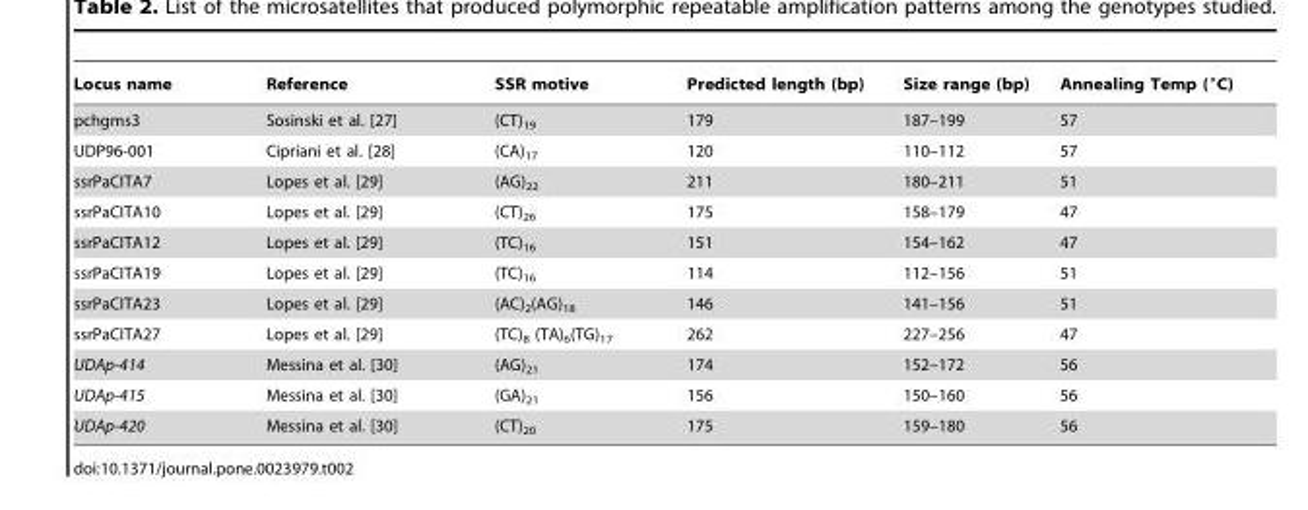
<table><thead><tr><td>Locus name</td><td>Reference</td><td>SSR motive</td><td>Predicted length (bp)</td><td>Size range (bp)</td><td>Annealing Temp (°C)</td></tr></thead><tbody><tr><td>pchgms3</td><td>Sosinski et al. [27]</td><td>(CT)<sub>19</sub></td><td>179</td><td>187–199</td><td>57</td></tr><tr><td>UDP96-001</td><td>Cipriani et al. [28]</td><td>(CA)<sub>17</sub></td><td>120</td><td>110–112</td><td>57</td></tr><tr><td>ssrPaCITA7</td><td>Lopes et al. [29]</td><td>(AG)<sub>22</sub></td><td>211</td><td>180–211</td><td>51</td></tr><tr><td>ssrPaCITA10</td><td>Lopes et al. [29]</td><td>(CT)<sub>26</sub></td><td>175</td><td>158–179</td><td>47</td></tr><tr><td>ssrPaCITA12</td><td>Lopes et al. [29]</td><td>(TC)<sub>16</sub></td><td>151</td><td>154–162</td><td>47</td></tr><tr><td>ssrPaCITA19</td><td>Lopes et al. [29]</td><td>(TC)<sub>16</sub></td><td>114</td><td>112–156</td><td>51</td></tr><tr><td>ssrPaCITA23</td><td>Lopes et al. [29]</td><td>(AC)<sub>2</sub>(AG)<sub>18</sub></td><td>146</td><td>141–156</td><td>51</td></tr><tr><td>ssrPaCITA27</td><td>Lopes et al. [29]</td><td>(TC)<sub>8</sub> (TA)<sub>6</sub>(TG)<sub>17</sub></td><td>262</td><td>227–256</td><td>47</td></tr><tr><td>UDAp-414</td><td>Messina et al. [30]</td><td>(AG)<sub>21</sub></td><td>174</td><td>152–172</td><td>56</td></tr><tr><td>UDAp-415</td><td>Messina et al. [30]</td><td>(GA)<sub>21</sub></td><td>156</td><td>150–160</td><td>56</td></tr><tr><td>UDAp-420</td><td>Messina et al. [30]</td><td>(CT)<sub>20</sub></td><td>175</td><td>159–180</td><td>56</td></tr></tbody></table>